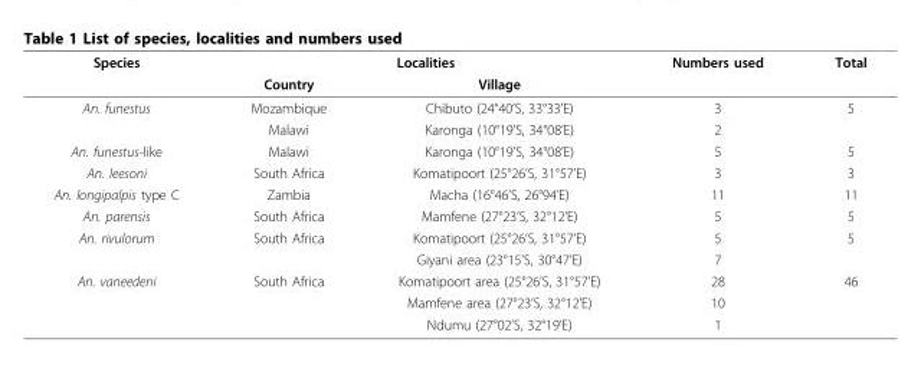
<table><thead><tr><td rowspan="2">Species</td><td colspan="2">Localities</td><td rowspan="2">Numbers used</td><td rowspan="2">Total</td></tr><tr><td>Country</td><td>Village</td></tr></thead><tbody><tr><td rowspan="2">An. funestus</td><td>Mozambique</td><td>Chibuto (24°40’S, 33°33’E)</td><td>3</td><td>5</td></tr><tr><td>Malawi</td><td>Karonga (10°19’S, 34°08’E)</td><td>2</td><td></td></tr><tr><td>An. funestus-like</td><td>Malawi</td><td>Karonga (10°19’S, 34°08’E)</td><td>5</td><td>5</td></tr><tr><td>An. leesoni</td><td>South Africa</td><td>Komatipoort (25°26’S, 31°57’E)</td><td>3</td><td>3</td></tr><tr><td>An. longipalpis type C</td><td>Zambia</td><td>Macha (16°46’S, 26°94’E)</td><td>11</td><td>11</td></tr><tr><td>An. parensis</td><td>South Africa</td><td>Mamfene (27°23’S, 32°12’E)</td><td>5</td><td>5</td></tr><tr><td rowspan="2">An. rivulorum</td><td>South Africa</td><td>Komatipoort (25°26’S, 31°57’E)</td><td>5</td><td>5</td></tr><tr><td></td><td>Giyani area (23°15’S, 30°47’E)</td><td>7</td><td></td></tr><tr><td rowspan="3">An. vaneedeni</td><td>South Africa</td><td>Komatipoort area (25°26’S, 31°57’E)</td><td>28</td><td>46</td></tr><tr><td></td><td>Mamfene area (27°23’S, 32°12’E)</td><td>10</td><td></td></tr><tr><td></td><td>Ndumu (27°02’S, 32°19’E)</td><td>1</td><td></td></tr></tbody></table>